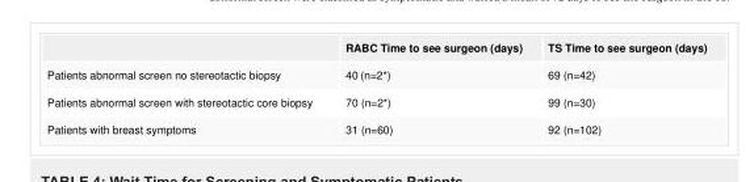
<table><thead><tr><td></td><td>RABC Time to see surgeon (days)</td><td>TS Time to see surgeon (days)</td></tr></thead><tbody><tr><td>Patients abnormal screen no stereotactic biopsy</td><td>40 (n=2*)</td><td>69 (n=42)</td></tr><tr><td>Patients abnormal screen with stereotactic core biopsy</td><td>70 (n=2*)</td><td>99 (n=30)</td></tr><tr><td>Patients with breast symptoms</td><td>31 (n=60)</td><td>92 (n=102)</td></tr></tbody></table>